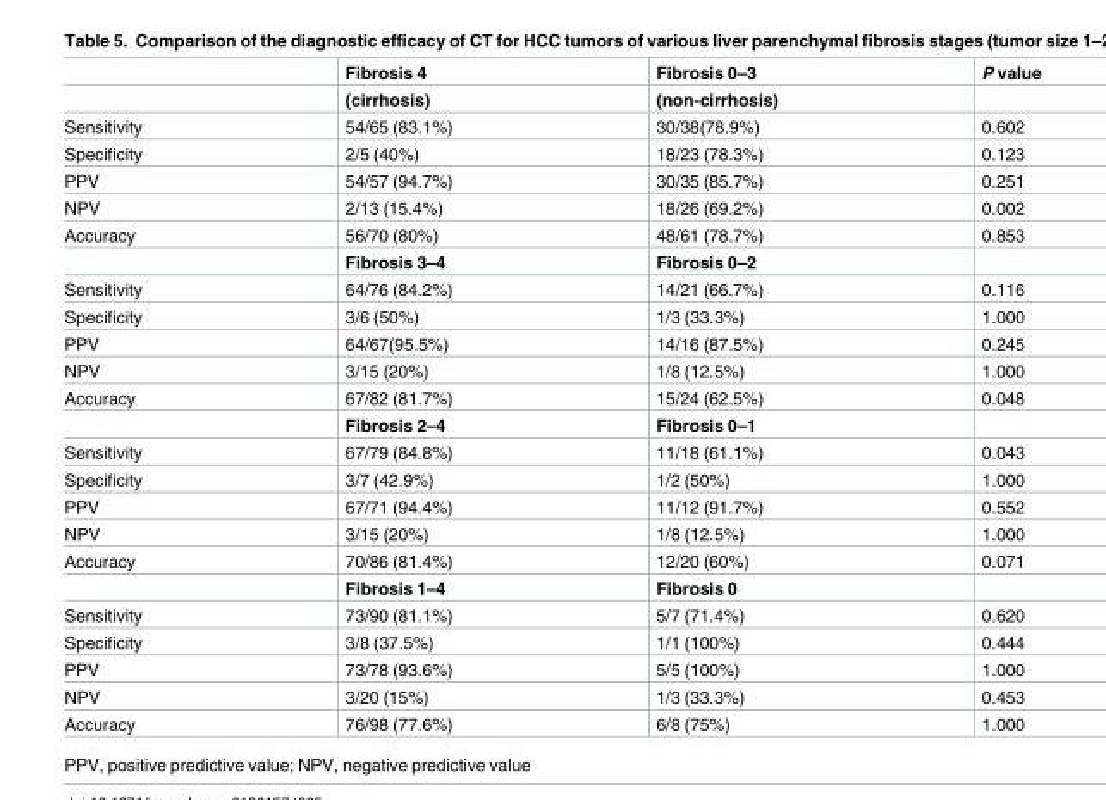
<table><thead><tr><td></td><td>Fibrosis 4</td><td>Fibrosis 0–3</td><td>P value</td></tr></thead><tbody><tr><td></td><td>(cirrhosis)</td><td>(non-cirrhosis)</td><td></td></tr><tr><td>Sensitivity</td><td>54/65 (83.1%)</td><td>30/38(78.9%)</td><td>0.602</td></tr><tr><td>Specificity</td><td>2/5 (40%)</td><td>18/23 (78.3%)</td><td>0.123</td></tr><tr><td>PPV</td><td>54/57 (94.7%)</td><td>30/35 (85.7%)</td><td>0.251</td></tr><tr><td>NPV</td><td>2/13 (15.4%)</td><td>18/26 (69.2%)</td><td>0.002</td></tr><tr><td rowspan="2">Accuracy</td><td>56/70 (80%)</td><td>48/61 (78.7%)</td><td>0.853</td></tr><tr><td>Fibrosis 3–4</td><td>Fibrosis 0–2</td><td></td></tr><tr><td>Sensitivity</td><td>64/76 (84.2%)</td><td>14/21 (66.7%)</td><td>0.116</td></tr><tr><td>Specificity</td><td>3/6 (50%)</td><td>1/3 (33.3%)</td><td>1.000</td></tr><tr><td>PPV</td><td>64/67(95.5%)</td><td>14/16 (87.5%)</td><td>0.245</td></tr><tr><td>NPV</td><td>3/15 (20%)</td><td>1/8 (12.5%)</td><td>1.000</td></tr><tr><td rowspan="2">Accuracy</td><td>67/82 (81.7%)</td><td>15/24 (62.5%)</td><td>0.048</td></tr><tr><td>Fibrosis 2–4</td><td>Fibrosis 0–1</td><td></td></tr><tr><td>Sensitivity</td><td>67/79 (84.8%)</td><td>11/18 (61.1%)</td><td>0.043</td></tr><tr><td>Specificity</td><td>3/7 (42.9%)</td><td>1/2 (50%)</td><td>1.000</td></tr><tr><td>PPV</td><td>67/71 (94.4%)</td><td>11/12 (91.7%)</td><td>0.552</td></tr><tr><td>NPV</td><td>3/15 (20%)</td><td>1/8 (12.5%)</td><td>1.000</td></tr><tr><td rowspan="2">Accuracy</td><td>70/86 (81.4%)</td><td>12/20 (60%)</td><td>0.071</td></tr><tr><td>Fibrosis 1–4</td><td>Fibrosis 0</td><td></td></tr><tr><td>Sensitivity</td><td>73/90 (81.1%)</td><td>5/7 (71.4%)</td><td>0.620</td></tr><tr><td>Specificity</td><td>3/8 (37.5%)</td><td>1/1 (100%)</td><td>0.444</td></tr><tr><td>PPV</td><td>73/78 (93.6%)</td><td>5/5 (100%)</td><td>1.000</td></tr><tr><td>NPV</td><td>3/20 (15%)</td><td>1/3 (33.3%)</td><td>0.453</td></tr><tr><td>Accuracy</td><td>76/98 (77.6%)</td><td>6/8 (75%)</td><td>1.000</td></tr></tbody></table>